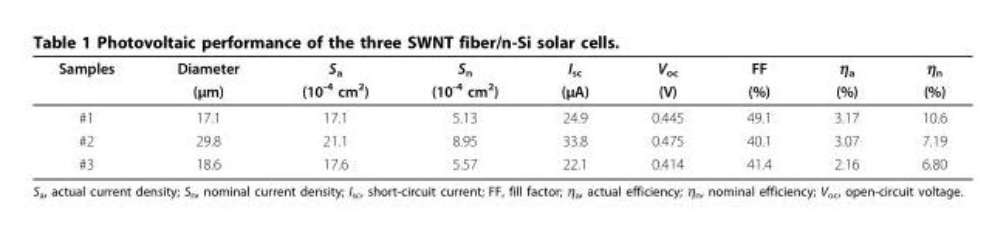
<table><thead><tr><td rowspan="2">Samples</td><td rowspan="2">Diameter (μm)</td><td rowspan="2">S<sub>a</sub> (10<sup>-4</sup> cm<sup>2</sup>)</td><td rowspan="2">S<sub>n</sub> (10<sup>-4</sup> cm<sup>2</sup>)</td><td rowspan="2">I<sub>sc</sub> (μA)</td><td rowspan="2">V<sub>oc</sub> (V)</td><td rowspan="2">FF (%)</td><td rowspan="2">η<sub>a</sub> (%)</td><td rowspan="2">η<sub>n</sub> (%)</td></tr><tr></tr></thead><tbody><tr><td>#1</td><td>17.1</td><td>17.1</td><td>5.13</td><td>24.9</td><td>0.445</td><td>49.1</td><td>3.17</td><td>10.6</td></tr><tr><td>#2</td><td>29.8</td><td>21.1</td><td>8.95</td><td>33.8</td><td>0.475</td><td>40.1</td><td>3.07</td><td>7.19</td></tr><tr><td>#3</td><td>18.6</td><td>17.6</td><td>5.57</td><td>22.1</td><td>0.414</td><td>41.4</td><td>2.16</td><td>6.80</td></tr></tbody></table>